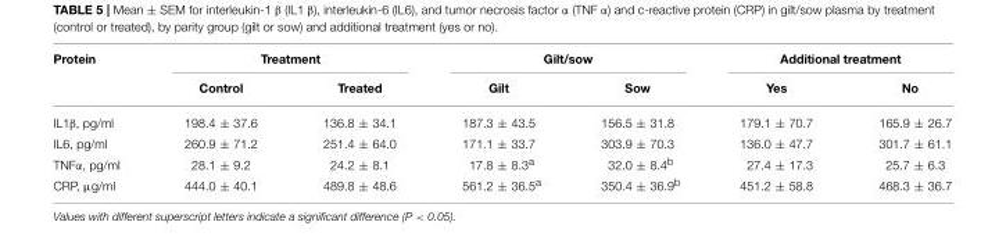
<table><thead><tr><td rowspan="2">Protein</td><td colspan="2">Treatment</td><td colspan="2">Gilt/sow</td><td colspan="2">Additional treatment</td></tr><tr><td>Control</td><td>Treated</td><td>Gilt</td><td>Sow</td><td>Yes</td><td>No</td></tr></thead><tbody><tr><td>IL1β, pg/ml</td><td>198.4 ± 37.6</td><td>136.8 ± 34.1</td><td>187.3 ± 43.5</td><td>156.5 ± 31.8</td><td>179.1 ± 70.7</td><td>165.9 ± 26.7</td></tr><tr><td>IL6, pg/ml</td><td>260.9 ± 71.2</td><td>251.4 ± 64.0</td><td>171.1 ± 33.7</td><td>303.9 ± 70.3</td><td>136.0 ± 47.7</td><td>301.7 ± 61.1</td></tr><tr><td>TNFα, pg/ml</td><td>28.1 ± 9.2</td><td>24.2 ± 8.1</td><td>17.8 ± 8.3<sup>a</sup></td><td>32.0 ± 8.4<sup>b</sup></td><td>27.4 ± 17.3</td><td>25.7 ± 6.3</td></tr><tr><td>CRP, µg/ml</td><td>444.0 ± 40.1</td><td>489.8 ± 48.6</td><td>561.2 ± 36.5<sup>a</sup></td><td>350.4 ± 36.9<sup>b</sup></td><td>451.2 ± 58.8</td><td>468.3 ± 36.7</td></tr></tbody></table>